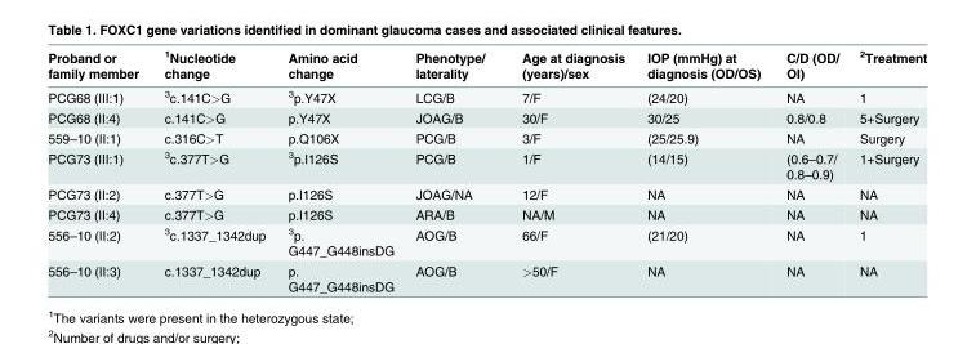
<table><thead><tr><td>Proband or family member</td><td><sup>1</sup>Nucleotide change</td><td>Amino acid change</td><td>Phenotype/ laterality</td><td>Age at diagnosis (years)/sex</td><td>IOP (mmHg) at diagnosis (OD/OS)</td><td>C/D (OD/ OI)</td><td><sup>2</sup>Treatment</td></tr></thead><tbody><tr><td>PCG68 (III:1)</td><td><sup>3</sup>c.141C&gt;G</td><td><sup>3</sup>p.Y47X</td><td>LCG/B</td><td>7/F</td><td>(24/20)</td><td>NA</td><td>1</td></tr><tr><td>PCG68 (II:4)</td><td>c.141C&gt;G</td><td>p.Y47X</td><td>JOAG/B</td><td>30/F</td><td>30/25</td><td>0.8/0.8</td><td>5+Surgery</td></tr><tr><td>559–10 (II:1)</td><td>c.316C&gt;T</td><td>p.Q106X</td><td>PCG/B</td><td>3/F</td><td>(25/25.9)</td><td>NA</td><td>Surgery</td></tr><tr><td>PCG73 (III:1)</td><td><sup>3</sup>c.377T&gt;G</td><td><sup>3</sup>p.I126S</td><td>PCG/B</td><td>1/F</td><td>(14/15)</td><td>(0.6–0.7/ 0.8–0.9)</td><td>1+Surgery</td></tr><tr><td>PCG73 (II:2)</td><td>c.377T&gt;G</td><td>p.I126S</td><td>JOAG/NA</td><td>12/F</td><td>NA</td><td>NA</td><td>NA</td></tr><tr><td>PCG73 (II:4)</td><td>c.377T&gt;G</td><td>p.I126S</td><td>ARA/B</td><td>NA/M</td><td>NA</td><td>NA</td><td>NA</td></tr><tr><td>556–10 (II:2)</td><td><sup>3</sup>c.1337_1342dup</td><td><sup>3</sup>p. G447_G448insDG</td><td>AOG/B</td><td>66/F</td><td>(21/20)</td><td>NA</td><td>1</td></tr><tr><td>556–10 (II:3)</td><td>c.1337_1342dup</td><td>p. G447_G448insDG</td><td>AOG/B</td><td>&gt;50/F</td><td>NA</td><td>NA</td><td>NA</td></tr></tbody></table>